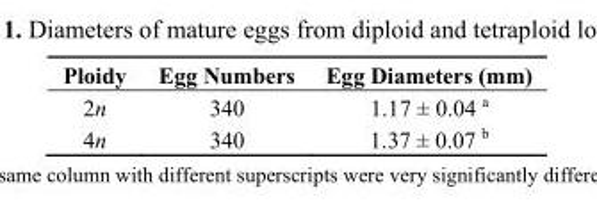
<table><thead><tr><td>Ploidy</td><td>Egg Numbers</td><td>Egg Diameters (mm)</td></tr></thead><tbody><tr><td>2n</td><td>340</td><td>1.17 ± 0.04 <sup>a</sup></td></tr><tr><td>4n</td><td>340</td><td>1.37 ± 0.07 <sup>b</sup></td></tr></tbody></table>